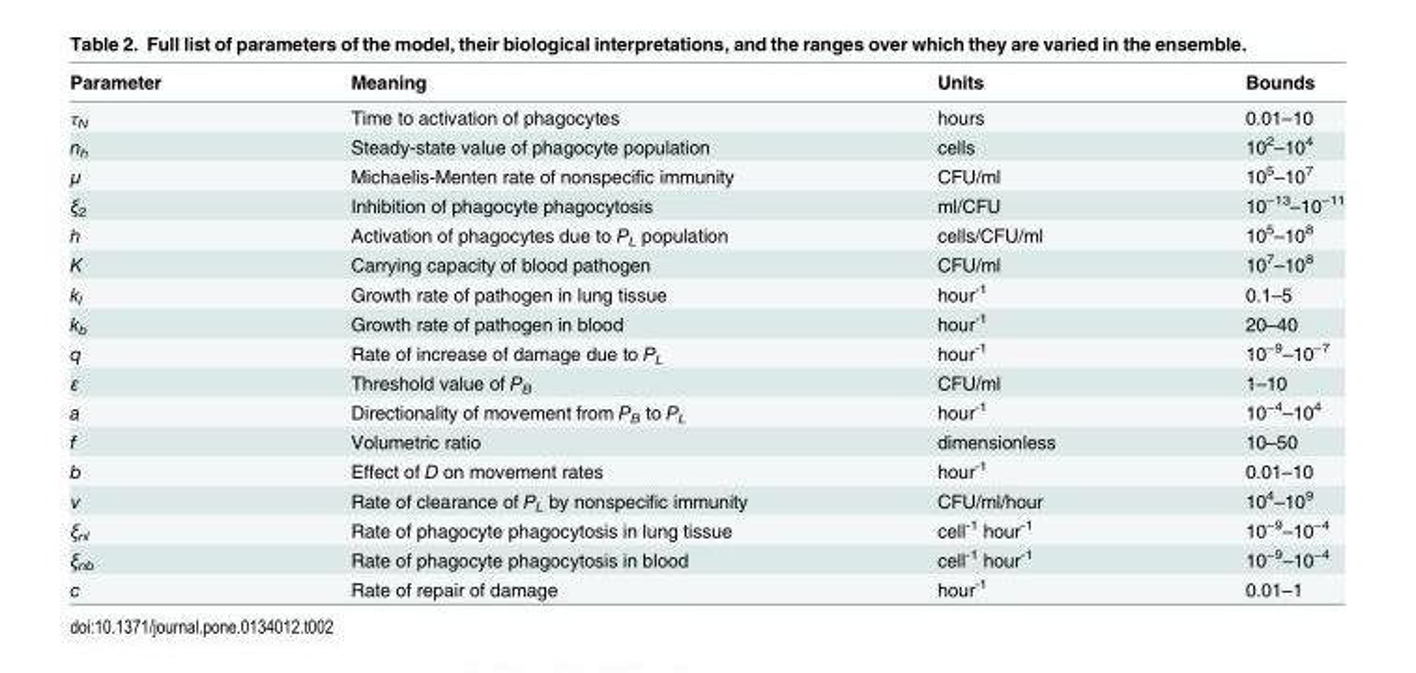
<table><thead><tr><td>Parameter</td><td>Meaning</td><td>Units</td><td>Bounds</td></tr></thead><tbody><tr><td>τ<sub>N</sub></td><td>Time to activation of phagocytes</td><td>hours</td><td>0.01–10</td></tr><tr><td>n<sub>h</sub></td><td>Steady-state value of phagocyte population</td><td>cells</td><td>10<sup>2</sup>–10<sup>4</sup></td></tr><tr><td>μ</td><td>Michaelis-Menten rate of nonspecific immunity</td><td>CFU/ml</td><td>10<sup>5</sup>–10<sup>7</sup></td></tr><tr><td>ξ<sub>2</sub></td><td>Inhibition of phagocyte phagocytosis</td><td>ml/CFU</td><td>10<sup>−13</sup>–10<sup>−11</sup></td></tr><tr><td>h</td><td>Activation of phagocytes due to P<sub>L</sub> population</td><td>cells/CFU/ml</td><td>10<sup>5</sup>–10<sup>8</sup></td></tr><tr><td>K</td><td>Carrying capacity of blood pathogen</td><td>CFU/ml</td><td>10<sup>7</sup>–10<sup>8</sup></td></tr><tr><td>k<sub>l</sub></td><td>Growth rate of pathogen in lung tissue</td><td>hour<sup>-1</sup></td><td>0.1–5</td></tr><tr><td>k<sub>b</sub></td><td>Growth rate of pathogen in blood</td><td>hour<sup>-1</sup></td><td>20–40</td></tr><tr><td>q</td><td>Rate of increase of damage due to P<sub>L</sub></td><td>hour<sup>-1</sup></td><td>10<sup>−9</sup>–10<sup>−7</sup></td></tr><tr><td>ε</td><td>Threshold value of P<sub>B</sub></td><td>CFU/ml</td><td>1–10</td></tr><tr><td>a</td><td>Directionality of movement from P<sub>B</sub> to P<sub>L</sub></td><td>hour<sup>-1</sup></td><td>10<sup>−4</sup>–10<sup>4</sup></td></tr><tr><td>f</td><td>Volumetric ratio</td><td>dimensionless</td><td>10–50</td></tr><tr><td>b</td><td>Effect of D on movement rates</td><td>hour<sup>-1</sup></td><td>0.01–10</td></tr><tr><td>ν</td><td>Rate of clearance of P<sub>L</sub> by nonspecific immunity</td><td>CFU/ml/hour</td><td>10<sup>4</sup>–10<sup>9</sup></td></tr><tr><td>ξ<sub>nl</sub></td><td>Rate of phagocyte phagocytosis in lung tissue</td><td>cell<sup>-1</sup> hour<sup>-1</sup></td><td>10<sup>−9</sup>–10<sup>−4</sup></td></tr><tr><td>ξ<sub>nb</sub></td><td>Rate of phagocyte phagocytosis in blood</td><td>cell<sup>-1</sup> hour<sup>-1</sup></td><td>10<sup>−9</sup>–10<sup>−4</sup></td></tr><tr><td>c</td><td>Rate of repair of damage</td><td>hour<sup>-1</sup></td><td>0.01–1</td></tr></tbody></table>